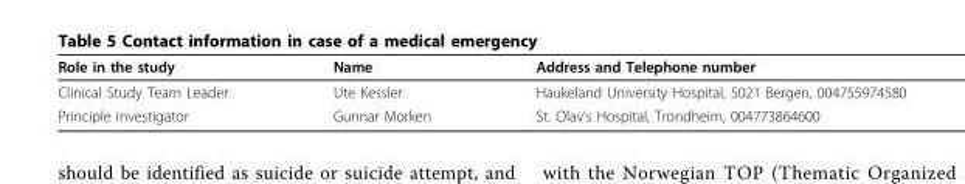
<table><thead><tr><td>Role in the study</td><td>Name</td><td>Address and Telephone number</td></tr></thead><tbody><tr><td>Clinical Study Team Leader</td><td>Ute Kessler</td><td>Haukeland University Hospital, 5021 Bergen, 004755974580</td></tr><tr><td>Principle investigator</td><td>Gunnar Morken</td><td>St. Olav’s Hospital, Trondheim, 004773864600</td></tr></tbody></table>